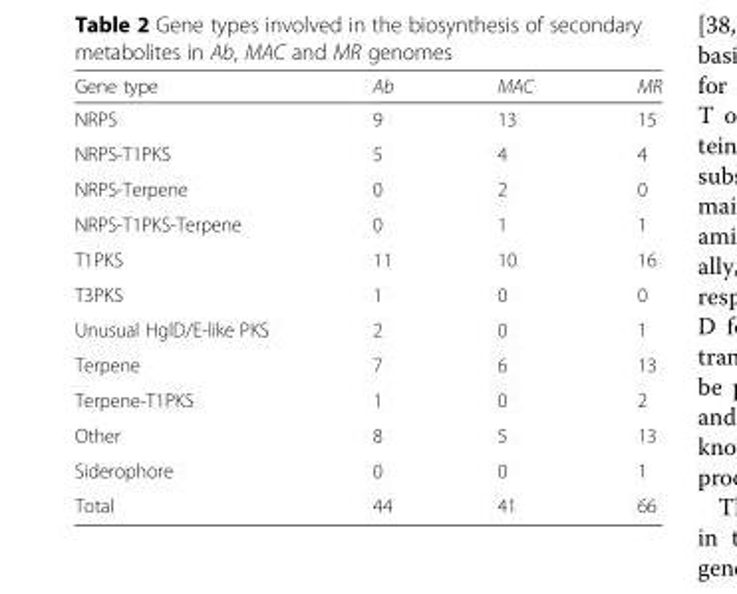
<table><thead><tr><td>Gene type</td><td>Ab</td><td>MAC</td><td>MR</td></tr></thead><tbody><tr><td>NRPS</td><td>9</td><td>13</td><td>15</td></tr><tr><td>NRPS-T1PKS</td><td>5</td><td>4</td><td>4</td></tr><tr><td>NRPS-Terpene</td><td>0</td><td>2</td><td>0</td></tr><tr><td>NRPS-T1PKS-Terpene</td><td>0</td><td>1</td><td>1</td></tr><tr><td>T1PKS</td><td>11</td><td>10</td><td>16</td></tr><tr><td>T3PKS</td><td>1</td><td>0</td><td>0</td></tr><tr><td>Unusual HglD/E-like PKS</td><td>2</td><td>0</td><td>1</td></tr><tr><td>Terpene</td><td>7</td><td>6</td><td>13</td></tr><tr><td>Terpene-T1PKS</td><td>1</td><td>0</td><td>2</td></tr><tr><td>Other</td><td>8</td><td>5</td><td>13</td></tr><tr><td>Siderophore</td><td>0</td><td>0</td><td>1</td></tr><tr><td>Total</td><td>44</td><td>41</td><td>66</td></tr></tbody></table>